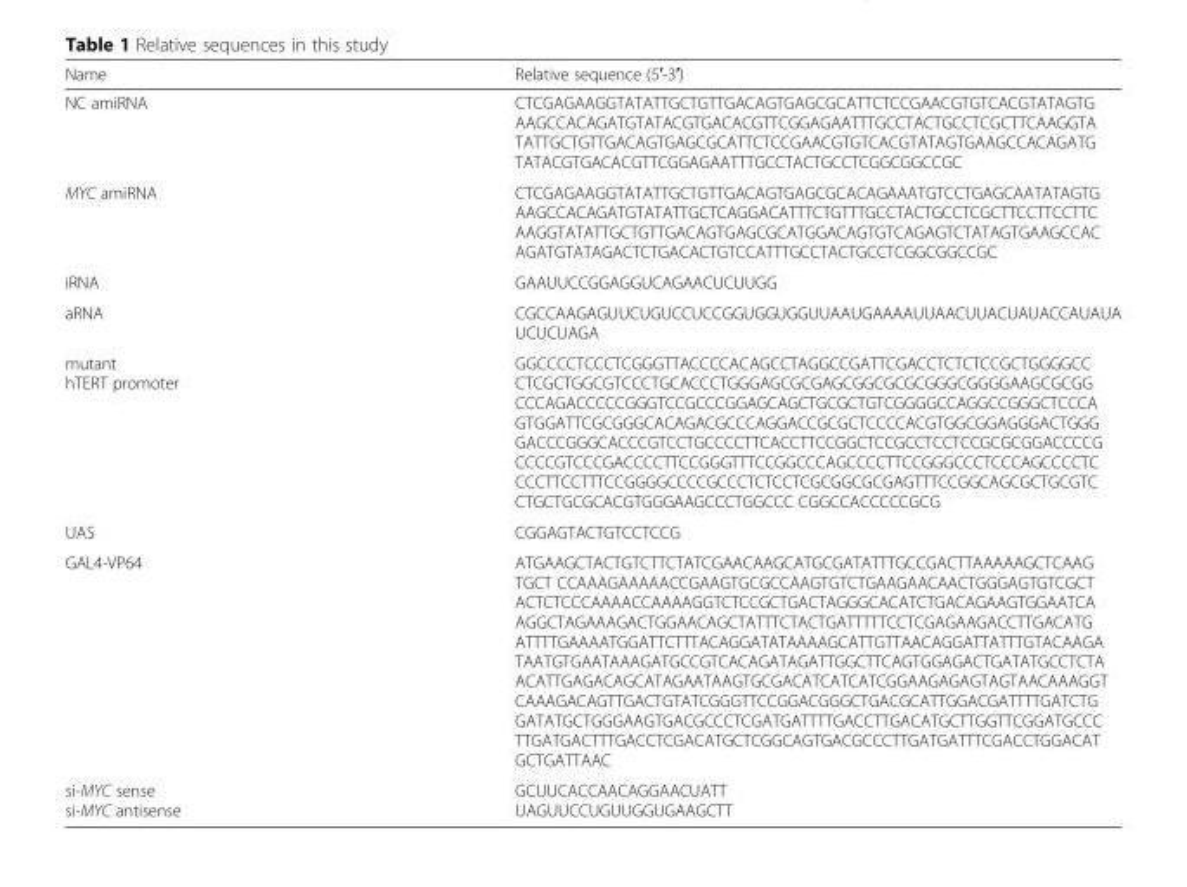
<table><thead><tr><td>Name</td><td>Relative sequence (5′-3′)</td></tr></thead><tbody><tr><td>NC amiRNA</td><td>CTCGAGAAGGTATATTGCTGTTGACAGTGAGCGCATTCTCCGAACGTGTCACGTATAGTG AAGCCACAGATGTATACGTGACACGTTCGGAGAATTTGCCTACTGCCTCGCTTCAAGGTA TATTGCTGTTGACAGTGAGCGCATTCTCCGAACGTGTCACGTATAGTGAAGCCACAGATG TATACGTGACACGTTCGGAGAATTTGCCTACTGCCTCGGCGGCCGC</td></tr><tr><td>MYC amiRNA</td><td>CTCGAGAAGGTATATTGCTGTTGACAGTGAGCGCACAGAAATGTCCTGAGCAATATAGTG AAGCCACAGATGTATATTGCTCAGGACATTTCTGTTTGCCTACTGCCTCGCTTCCTTCCTTC AAGGTATATTGCTGTTGACAGTGAGCGCATGGACAGTGTCAGAGTCTATAGTGAAGCCAC AGATGTATAGACTCTGACACTGTCCATTTGCCTACTGCCTCGGCGGCCGC</td></tr><tr><td>iRNA</td><td>GAAUUCCGGAGGUCAGAACUCUUGG</td></tr><tr><td>aRNA</td><td>CGCCAAGAGUUCUGUCCUCCGGUGGUGGUUAAUGAAAAUUAACUUACUAUACCAUAUA UCUCUAGA</td></tr><tr><td>mutant hTERT promoter</td><td>GGCCCCTCCCTCGGGTTACCCCACAGCCTAGGCCGATTCGACCTCTCTCCGCTGGGGCC CTCGCTGGCGTCCCTGCACCCTGGGAGCGCGAGCGGCGCGCGGGCGGGGAAGCGCGG CCCAGACCCCCGGGTCCGCCCGGAGCAGCTGCGCTGTCGGGGCCAGGCCGGGCTCCCA GTGGATTCGCGGGCACAGACGCCCAGGACCGCGCTCCCCACGTGGCGGAGGGACTGGG GACCCGGGCACCCGTCCTGCCCCTTCACCTTCCGGCTCCGCCTCCTCCGCGCGGACCCCG CCCCGTCCCGACCCCTTCCGGGTTTCCGGCCCAGCCCCTTCCGGGCCCTCCCAGCCCCTC CCCTTCCTTTCCGGGGCCCCGCCCTCTCCTCGCGGCGCGAGTTTCCGGCAGCGCTGCGTC CTGCTGCGCACGTGGGAAGCCCTGGCCC CGGCCACCCCCGCG</td></tr><tr><td>UAS</td><td>CGGAGTACTGTCCTCCG</td></tr><tr><td>GAL4-VP64</td><td>ATGAAGCTACTGTCTTCTATCGAACAAGCATGCGATATTTGCCGACTTAAAAAGCTCAAG TGCT CCAAAGAAAAACCGAAGTGCGCCAAGTGTCTGAAGAACAACTGGGAGTGTCGCT ACTCTCCCAAAACCAAAAGGTCTCCGCTGACTAGGGCACATCTGACAGAAGTGGAATCA AGGCTAGAAAGACTGGAACAGCTATTTCTACTGATTTTTCCTCGAGAAGACCTTGACATG ATTTTGAAAATGGATTCTTTACAGGATATAAAAGCATTGTTAACAGGATTATTTGTACAAGA TAATGTGAATAAAGATGCCGTCACAGATAGATTGGCTTCAGTGGAGACTGATATGCCTCTA ACATTGAGACAGCATAGAATAAGTGCGACATCATCATCGGAAGAGAGTAGTAACAAAGGT CAAAGACAGTTGACTGTATCGGGTTCCGGACGGGCTGACGCATTGGACGATTTTGATCTG GATATGCTGGGAAGTGACGCCCTCGATGATTTTGACCTTGACATGCTTGGTTCGGATGCCC TTGATGACTTTGACCTCGACATGCTCGGCAGTGACGCCCTTGATGATTTCGACCTGGACAT GCTGATTAAC</td></tr><tr><td>si-MYC sense si-MYC antisense</td><td>GCUUCACCAACAGGAACUATT UAGUUCCUGUUGGUGAAGCTT</td></tr></tbody></table>